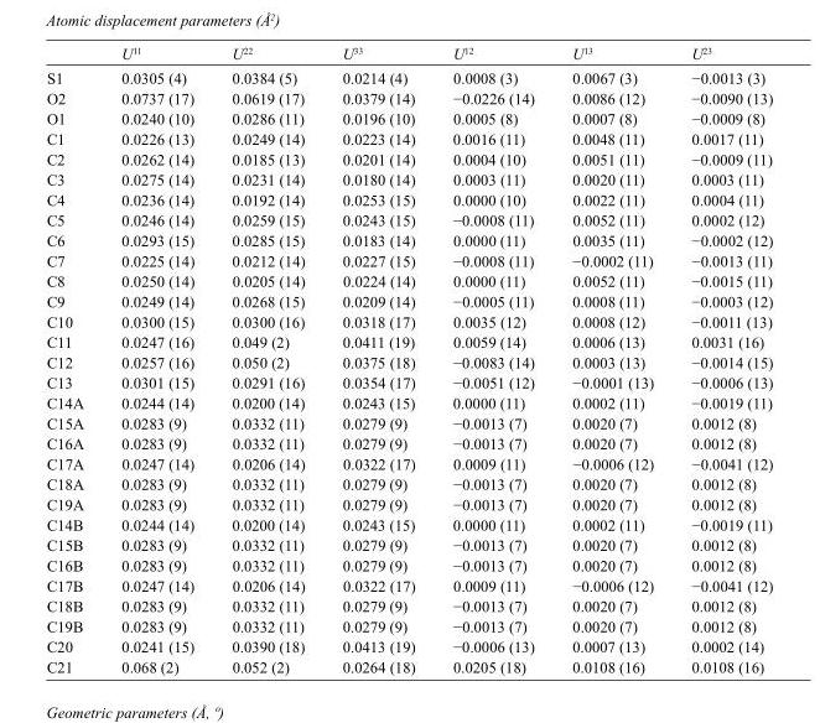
<table><thead><tr><td></td><td>U<sup>11</sup></td><td>U<sup>22</sup></td><td>U<sup>33</sup></td><td>U<sup>12</sup></td><td>U<sup>13</sup></td><td>U<sup>23</sup></td></tr></thead><tbody><tr><td>S1</td><td>0.0305 (4)</td><td>0.0384 (5)</td><td>0.0214 (4)</td><td>0.0008 (3)</td><td>0.0067 (3)</td><td>−0.0013 (3)</td></tr><tr><td>O2</td><td>0.0737 (17)</td><td>0.0619 (17)</td><td>0.0379 (14)</td><td>−0.0226 (14)</td><td>0.0086 (12)</td><td>−0.0090 (13)</td></tr><tr><td>O1</td><td>0.0240 (10)</td><td>0.0286 (11)</td><td>0.0196 (10)</td><td>0.0005 (8)</td><td>0.0007 (8)</td><td>−0.0009 (8)</td></tr><tr><td>C1</td><td>0.0226 (13)</td><td>0.0249 (14)</td><td>0.0223 (14)</td><td>0.0016 (11)</td><td>0.0048 (11)</td><td>0.0017 (11)</td></tr><tr><td>C2</td><td>0.0262 (14)</td><td>0.0185 (13)</td><td>0.0201 (14)</td><td>0.0004 (10)</td><td>0.0051 (11)</td><td>−0.0009 (11)</td></tr><tr><td>C3</td><td>0.0275 (14)</td><td>0.0231 (14)</td><td>0.0180 (14)</td><td>0.0003 (11)</td><td>0.0020 (11)</td><td>0.0003 (11)</td></tr><tr><td>C4</td><td>0.0236 (14)</td><td>0.0192 (14)</td><td>0.0253 (15)</td><td>0.0000 (10)</td><td>0.0022 (11)</td><td>0.0004 (11)</td></tr><tr><td>C5</td><td>0.0246 (14)</td><td>0.0259 (15)</td><td>0.0243 (15)</td><td>−0.0008 (11)</td><td>0.0052 (11)</td><td>0.0002 (12)</td></tr><tr><td>C6</td><td>0.0293 (15)</td><td>0.0285 (15)</td><td>0.0183 (14)</td><td>0.0000 (11)</td><td>0.0035 (11)</td><td>−0.0002 (12)</td></tr><tr><td>C7</td><td>0.0225 (14)</td><td>0.0212 (14)</td><td>0.0227 (15)</td><td>−0.0008 (11)</td><td>−0.0002 (11)</td><td>−0.0013 (11)</td></tr><tr><td>C8</td><td>0.0250 (14)</td><td>0.0205 (14)</td><td>0.0224 (14)</td><td>0.0000 (11)</td><td>0.0052 (11)</td><td>−0.0015 (11)</td></tr><tr><td>C9</td><td>0.0249 (14)</td><td>0.0268 (15)</td><td>0.0209 (14)</td><td>−0.0005 (11)</td><td>0.0008 (11)</td><td>−0.0003 (12)</td></tr><tr><td>C10</td><td>0.0300 (15)</td><td>0.0300 (16)</td><td>0.0318 (17)</td><td>0.0035 (12)</td><td>0.0008 (12)</td><td>−0.0011 (13)</td></tr><tr><td>C11</td><td>0.0247 (16)</td><td>0.049 (2)</td><td>0.0411 (19)</td><td>0.0059 (14)</td><td>0.0006 (13)</td><td>0.0031 (16)</td></tr><tr><td>C12</td><td>0.0257 (16)</td><td>0.050 (2)</td><td>0.0375 (18)</td><td>−0.0083 (14)</td><td>0.0003 (13)</td><td>−0.0014 (15)</td></tr><tr><td>C13</td><td>0.0301 (15)</td><td>0.0291 (16)</td><td>0.0354 (17)</td><td>−0.0051 (12)</td><td>−0.0001 (13)</td><td>−0.0006 (13)</td></tr><tr><td>C14A</td><td>0.0244 (14)</td><td>0.0200 (14)</td><td>0.0243 (15)</td><td>0.0000 (11)</td><td>0.0002 (11)</td><td>−0.0019 (11)</td></tr><tr><td>C15A</td><td>0.0283 (9)</td><td>0.0332 (11)</td><td>0.0279 (9)</td><td>−0.0013 (7)</td><td>0.0020 (7)</td><td>0.0012 (8)</td></tr><tr><td>C16A</td><td>0.0283 (9)</td><td>0.0332 (11)</td><td>0.0279 (9)</td><td>−0.0013 (7)</td><td>0.0020 (7)</td><td>0.0012 (8)</td></tr><tr><td>C17A</td><td>0.0247 (14)</td><td>0.0206 (14)</td><td>0.0322 (17)</td><td>0.0009 (11)</td><td>−0.0006 (12)</td><td>−0.0041 (12)</td></tr><tr><td>C18A</td><td>0.0283 (9)</td><td>0.0332 (11)</td><td>0.0279 (9)</td><td>−0.0013 (7)</td><td>0.0020 (7)</td><td>0.0012 (8)</td></tr><tr><td>C19A</td><td>0.0283 (9)</td><td>0.0332 (11)</td><td>0.0279 (9)</td><td>−0.0013 (7)</td><td>0.0020 (7)</td><td>0.0012 (8)</td></tr><tr><td>C14B</td><td>0.0244 (14)</td><td>0.0200 (14)</td><td>0.0243 (15)</td><td>0.0000 (11)</td><td>0.0002 (11)</td><td>−0.0019 (11)</td></tr><tr><td>C15B</td><td>0.0283 (9)</td><td>0.0332 (11)</td><td>0.0279 (9)</td><td>−0.0013 (7)</td><td>0.0020 (7)</td><td>0.0012 (8)</td></tr><tr><td>C16B</td><td>0.0283 (9)</td><td>0.0332 (11)</td><td>0.0279 (9)</td><td>−0.0013 (7)</td><td>0.0020 (7)</td><td>0.0012 (8)</td></tr><tr><td>C17B</td><td>0.0247 (14)</td><td>0.0206 (14)</td><td>0.0322 (17)</td><td>0.0009 (11)</td><td>−0.0006 (12)</td><td>−0.0041 (12)</td></tr><tr><td>C18B</td><td>0.0283 (9)</td><td>0.0332 (11)</td><td>0.0279 (9)</td><td>−0.0013 (7)</td><td>0.0020 (7)</td><td>0.0012 (8)</td></tr><tr><td>C19B</td><td>0.0283 (9)</td><td>0.0332 (11)</td><td>0.0279 (9)</td><td>−0.0013 (7)</td><td>0.0020 (7)</td><td>0.0012 (8)</td></tr><tr><td>C20</td><td>0.0241 (15)</td><td>0.0390 (18)</td><td>0.0413 (19)</td><td>−0.0006 (13)</td><td>0.0007 (13)</td><td>0.0002 (14)</td></tr><tr><td>C21</td><td>0.068 (2)</td><td>0.052 (2)</td><td>0.0264 (18)</td><td>0.0205 (18)</td><td>0.0108 (16)</td><td>0.0108 (16)</td></tr></tbody></table>